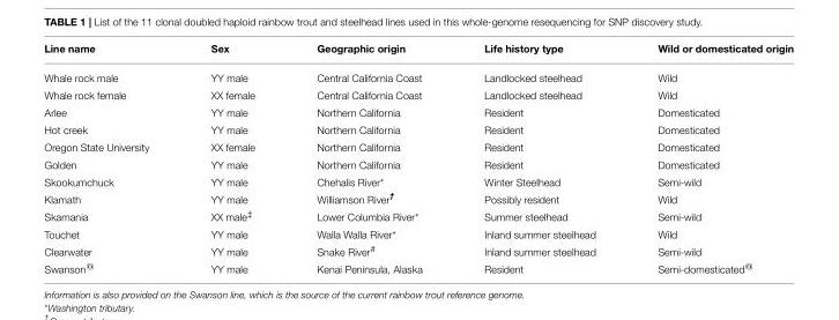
<table><thead><tr><td>Line name</td><td>Sex</td><td>Geographic origin</td><td>Life history type</td><td>Wild or domesticated origin</td></tr></thead><tbody><tr><td>Whale rock male</td><td>YY male</td><td>Central California Coast</td><td>Landlocked steelhead</td><td>Wild</td></tr><tr><td>Whale rock female</td><td>XX female</td><td>Central California Coast</td><td>Landlocked steelhead</td><td>Wild</td></tr><tr><td>Arlee</td><td>YY male</td><td>Northern California</td><td>Resident</td><td>Domesticated</td></tr><tr><td>Hot creek</td><td>YY male</td><td>Northern California</td><td>Resident</td><td>Domesticated</td></tr><tr><td>Oregon State University</td><td>XX female</td><td>Northern California</td><td>Resident</td><td>Domesticated</td></tr><tr><td>Golden</td><td>YY male</td><td>Northern California</td><td>Resident</td><td>Domesticated</td></tr><tr><td>Skookumchuck</td><td>YY male</td><td>Chehalis River*</td><td>Winter Steelhead</td><td>Semi-wild</td></tr><tr><td>Klamath</td><td>YY male</td><td>Williamson River<sup>†</sup></td><td>Possibly resident</td><td>Wild</td></tr><tr><td>Skamania</td><td>XX male<sup>‡</sup></td><td>Lower Columbia River*</td><td>Summer steelhead</td><td>Semi-wild</td></tr><tr><td>Touchet</td><td>YY male</td><td>Walla Walla River*</td><td>Inland summer steelhead</td><td>Wild</td></tr><tr><td>Clearwater</td><td>YY male</td><td>Snake River<sup>#</sup></td><td>Inland summer steelhead</td><td>Semi-wild</td></tr><tr><td>Swanson<sup>@</sup></td><td>YY male</td><td>Kenai Peninsula, Alaska</td><td>Resident</td><td>Semi-domesticated<sup>@</sup></td></tr></tbody></table>